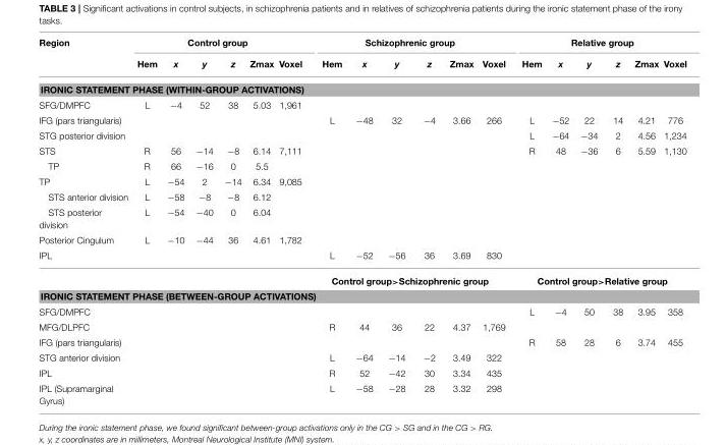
<table><thead><tr><td rowspan="2">Region</td><td colspan="6">Control group</td><td colspan="6">Schizophrenic group</td><td colspan="6">Relative group</td></tr><tr><td>Hem</td><td>x</td><td>y</td><td>z</td><td>Zmax</td><td>Voxel</td><td>Hem</td><td>x</td><td>y</td><td>z</td><td>Zmax</td><td>Voxel</td><td>Hem</td><td>x</td><td>y</td><td>z</td><td>Zmax</td><td>Voxel</td></tr></thead><tbody><tr><td colspan="19">IRONIC STATEMENT PHASE (WITHIN-GROUP ACTIVATIONS)</td></tr><tr><td>SFG/DMPFC</td><td>L</td><td>−4</td><td>52</td><td>38</td><td>5.03</td><td>1,961</td><td></td><td></td><td></td><td></td><td></td><td></td><td></td><td></td><td></td><td></td><td></td><td></td></tr><tr><td>IFG (pars triangularis)</td><td></td><td></td><td></td><td></td><td></td><td></td><td>L</td><td>−48</td><td>32</td><td>−4</td><td>3.66</td><td>266</td><td>L</td><td>−52</td><td>22</td><td>14</td><td>4.21</td><td>776</td></tr><tr><td>STG posterior division</td><td></td><td></td><td></td><td></td><td></td><td></td><td></td><td></td><td></td><td></td><td></td><td></td><td>L</td><td>−64</td><td>−34</td><td>2</td><td>4.56</td><td>1,234</td></tr><tr><td>STS</td><td>R</td><td>56</td><td>−14</td><td>−8</td><td>6.14</td><td>7,111</td><td></td><td></td><td></td><td></td><td></td><td></td><td>R</td><td>48</td><td>−36</td><td>6</td><td>5.59</td><td>1,130</td></tr><tr><td>TP</td><td>R</td><td>66</td><td>−16</td><td>0</td><td>5.5</td><td></td><td></td><td></td><td></td><td></td><td></td><td></td><td></td><td></td><td></td><td></td><td></td><td></td></tr><tr><td>TP</td><td>L</td><td>−54</td><td>2</td><td>−14</td><td>6.34</td><td>9,085</td><td></td><td></td><td></td><td></td><td></td><td></td><td></td><td></td><td></td><td></td><td></td><td></td></tr><tr><td>STS anterior division</td><td>L</td><td>−58</td><td>−8</td><td>−8</td><td>6.12</td><td></td><td></td><td></td><td></td><td></td><td></td><td></td><td></td><td></td><td></td><td></td><td></td><td></td></tr><tr><td>STS posterior division</td><td>L</td><td>−54</td><td>−40</td><td>0</td><td>6.04</td><td></td><td></td><td></td><td></td><td></td><td></td><td></td><td></td><td></td><td></td><td></td><td></td><td></td></tr><tr><td>Posterior Cingulum</td><td>L</td><td>−10</td><td>−44</td><td>36</td><td>4.61</td><td>1,782</td><td></td><td></td><td></td><td></td><td></td><td></td><td></td><td></td><td></td><td></td><td></td><td></td></tr><tr><td rowspan="2">IPL</td><td></td><td></td><td></td><td></td><td></td><td></td><td>L</td><td>−52</td><td>−56</td><td>36</td><td>3.69</td><td>830</td><td></td><td></td><td></td><td></td><td></td><td></td></tr><tr><td></td><td></td><td></td><td></td><td></td><td></td><td colspan="6">Control group&gt;Schizophrenic group</td><td colspan="6">Control group&gt;Relative group</td></tr><tr><td colspan="19">IRONIC STATEMENT PHASE (BETWEEN-GROUP ACTIVATIONS)</td></tr><tr><td>SFG/DMPFC</td><td></td><td></td><td></td><td></td><td></td><td></td><td colspan="6"></td><td>L</td><td>−4</td><td>50</td><td>38</td><td>3.95</td><td>358</td></tr><tr><td>MFG/DLPFC</td><td></td><td></td><td></td><td></td><td></td><td></td><td>R</td><td>44</td><td>36</td><td>22</td><td>4.37</td><td>1,769</td><td></td><td></td><td></td><td></td><td></td><td></td></tr><tr><td>IFG (pars triangularis)</td><td></td><td></td><td></td><td></td><td></td><td></td><td></td><td></td><td></td><td></td><td></td><td></td><td>R</td><td>58</td><td>28</td><td>6</td><td>3.74</td><td>455</td></tr><tr><td>STG anterior division</td><td></td><td></td><td></td><td></td><td></td><td></td><td>L</td><td>−64</td><td>−14</td><td>−2</td><td>3.49</td><td>322</td><td></td><td></td><td></td><td></td><td></td><td></td></tr><tr><td>IPL</td><td></td><td></td><td></td><td></td><td></td><td></td><td>R</td><td>52</td><td>−42</td><td>30</td><td>3.34</td><td>435</td><td></td><td></td><td></td><td></td><td></td><td></td></tr><tr><td>IPL (Supramarginal Gyrus)</td><td></td><td></td><td></td><td></td><td></td><td></td><td>L</td><td>−58</td><td>−28</td><td>28</td><td>3.32</td><td>298</td><td></td><td></td><td></td><td></td><td></td><td></td></tr></tbody></table>